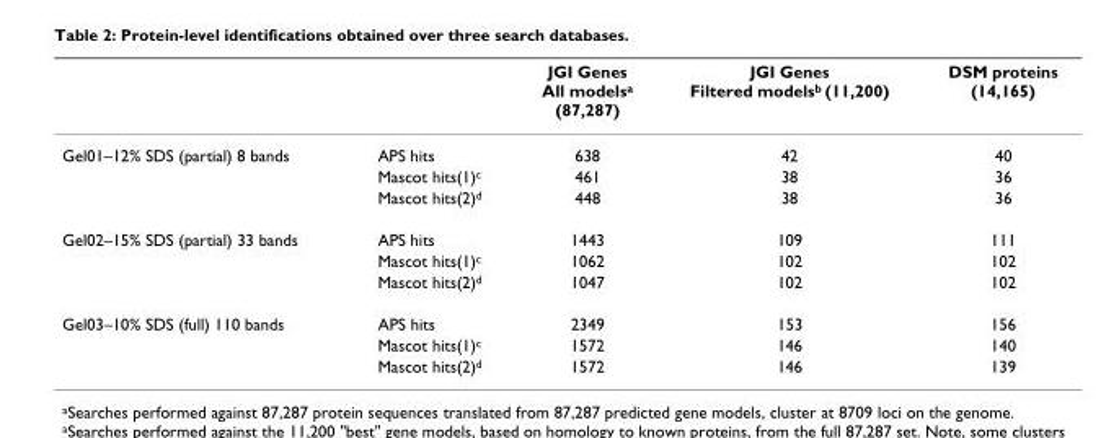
<table><thead><tr><td></td><td></td><td>JGI Genes All models<sup>a</sup> (87,287)</td><td>JGI Genes Filtered models<sup>b</sup> (11,200)</td><td>DSM proteins (14,165)</td></tr></thead><tbody><tr><td rowspan="3">Gel01–12% SDS (partial) 8 bands</td><td>APS hits</td><td>638</td><td>42</td><td>40</td></tr><tr><td>Mascot hits(1)<sup>c</sup></td><td>461</td><td>38</td><td>36</td></tr><tr><td>Mascot hits(2)<sup>d</sup></td><td>448</td><td>38</td><td>36</td></tr><tr><td rowspan="3">Gel02–15% SDS (partial) 33 bands</td><td>APS hits</td><td>1443</td><td>109</td><td>111</td></tr><tr><td>Mascot hits(1)<sup>c</sup></td><td>1062</td><td>102</td><td>102</td></tr><tr><td>Mascot hits(2)<sup>d</sup></td><td>1047</td><td>102</td><td>102</td></tr><tr><td rowspan="3">Gel03–10% SDS (full) 110 bands</td><td>APS hits</td><td>2349</td><td>153</td><td>156</td></tr><tr><td>Mascot hits(1)<sup>c</sup></td><td>1572</td><td>146</td><td>140</td></tr><tr><td>Mascot hits(2)<sup>d</sup></td><td>1572</td><td>146</td><td>139</td></tr></tbody></table>